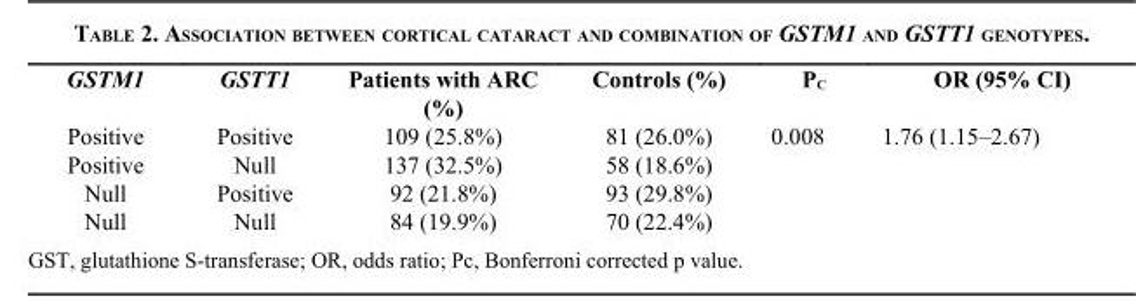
<table><thead><tr><td>GSTM1</td><td>GSTT1</td><td>Patients with ARC (%)</td><td>Controls (%)</td><td>P<sub>C</sub></td><td>OR (95% CI)</td></tr></thead><tbody><tr><td>Positive</td><td>Positive</td><td>109 (25.8%)</td><td>81 (26.0%)</td><td rowspan="2">0.008</td><td rowspan="2">1.76 (1.15–2.67)</td></tr><tr><td>Positive</td><td>Null</td><td>137 (32.5%)</td><td>58 (18.6%)</td></tr><tr><td>Null</td><td>Positive</td><td>92 (21.8%)</td><td>93 (29.8%)</td><td></td><td></td></tr><tr><td>Null</td><td>Null</td><td>84 (19.9%)</td><td>70 (22.4%)</td><td></td><td></td></tr></tbody></table>